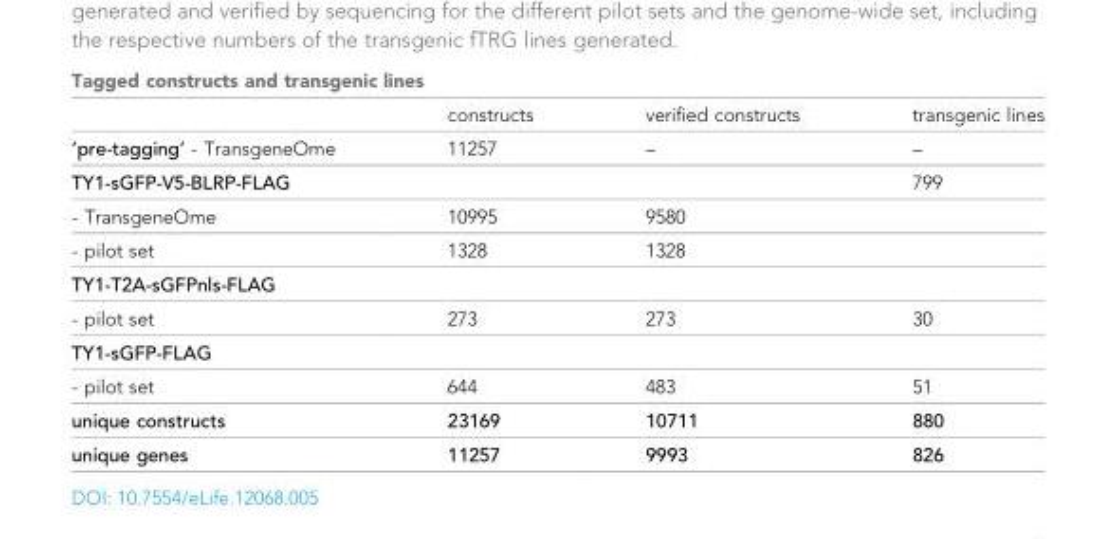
<table><thead><tr><td colspan="4">Tagged constructs and transgenic lines</td></tr><tr><td></td><td>constructs</td><td>verified constructs</td><td>transgenic lines</td></tr></thead><tbody><tr><td>‘pre-tagging’ - TransgeneOme</td><td>11257</td><td>–</td><td>–</td></tr><tr><td>TY1-sGFP-V5-BLRP-FLAG</td><td></td><td></td><td>799</td></tr><tr><td>- TransgeneOme</td><td>10995</td><td>9580</td><td></td></tr><tr><td>- pilot set</td><td>1328</td><td>1328</td><td></td></tr><tr><td colspan="4">TY1-T2A-sGFPnls-FLAG</td></tr><tr><td>- pilot set</td><td>273</td><td>273</td><td>30</td></tr><tr><td colspan="4">TY1-sGFP-FLAG</td></tr><tr><td>- pilot set</td><td>644</td><td>483</td><td>51</td></tr><tr><td>unique constructs</td><td>23169</td><td>10711</td><td>880</td></tr><tr><td>unique genes</td><td>11257</td><td>9993</td><td>826</td></tr></tbody></table>